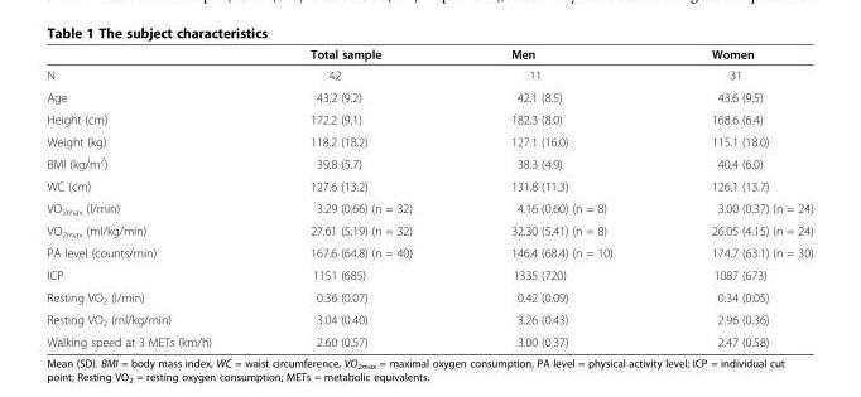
<table><thead><tr><td></td><td>Total sample</td><td>Men</td><td>Women</td></tr></thead><tbody><tr><td>N</td><td>42</td><td>11</td><td>31</td></tr><tr><td>Age</td><td>43.2 (9.2)</td><td>42.1 (8.5)</td><td>43.6 (9.5)</td></tr><tr><td>Height (cm)</td><td>172.2 (9.1)</td><td>182.3 (8.0)</td><td>168.6 (6.4)</td></tr><tr><td>Weight (kg)</td><td>118.2 (18.2)</td><td>127.1 (16.0)</td><td>115.1 (18.0)</td></tr><tr><td>BMI (kg/m<sup>2</sup>)</td><td>39.8 (5.7)</td><td>38.3 (4.9)</td><td>40.4 (6.0)</td></tr><tr><td>WC (cm)</td><td>127.6 (13.2)</td><td>131.8 (11.3)</td><td>126.1 (13.7)</td></tr><tr><td>VO<sub>2max</sub> (l/min)</td><td>3.29 (0.66) (n = 32)</td><td>4.16 (0.60) (n = 8)</td><td>3.00 (0.37) (n = 24)</td></tr><tr><td>VO<sub>2max</sub> (ml/kg/min)</td><td>27.61 (5.19) (n = 32)</td><td>32.30 (5.41) (n = 8)</td><td>26.05 (4.15) (n = 24)</td></tr><tr><td>PA level (counts/min)</td><td>167.6 (64.8) (n = 40)</td><td>146.4 (68.4) (n = 10)</td><td>174.7 (63.1) (n = 30)</td></tr><tr><td>ICP</td><td>1151 (685)</td><td>1335 (720)</td><td>1087 (673)</td></tr><tr><td>Resting VO<sub>2</sub> (l/min)</td><td>0.36 (0.07)</td><td>0.42 (0.09)</td><td>0.34 (0.05)</td></tr><tr><td>Resting VO<sub>2</sub> (ml/kg/min)</td><td>3.04 (0.40)</td><td>3.26 (0.43)</td><td>2.96 (0.36)</td></tr><tr><td>Walking speed at 3 METs (km/h)</td><td>2.60 (0.57)</td><td>3.00 (0.37)</td><td>2.47 (0.58)</td></tr></tbody></table>